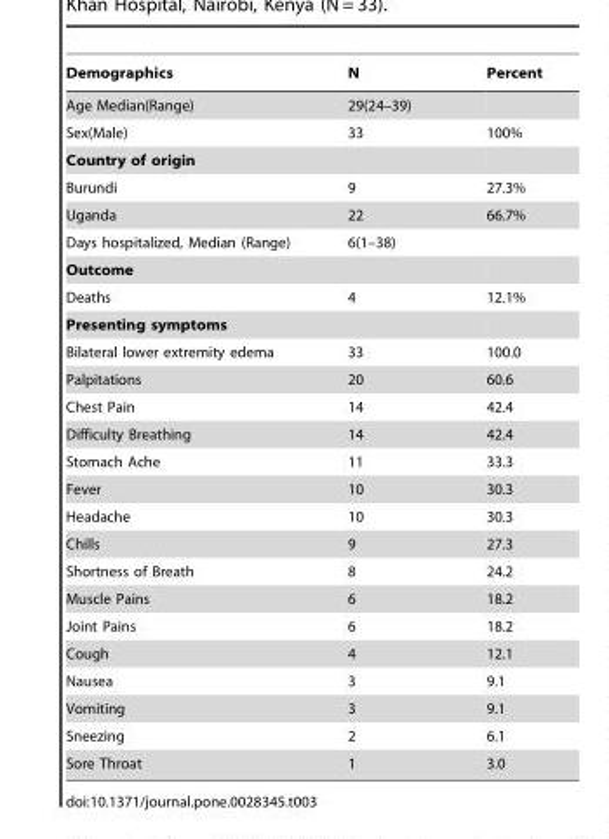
<table><thead><tr><td>Demographics</td><td>N</td><td>Percent</td></tr></thead><tbody><tr><td>Age Median(Range)</td><td>29(24–39)</td><td></td></tr><tr><td>Sex(Male)</td><td>33</td><td>100%</td></tr><tr><td colspan="3">Country of origin</td></tr><tr><td>Burundi</td><td>9</td><td>27.3%</td></tr><tr><td>Uganda</td><td>22</td><td>66.7%</td></tr><tr><td>Days hospitalized, Median (Range)</td><td>6(1–38)</td><td></td></tr><tr><td colspan="3">Outcome</td></tr><tr><td>Deaths</td><td>4</td><td>12.1%</td></tr><tr><td colspan="3">Presenting symptoms</td></tr><tr><td>Bilateral lower extremity edema</td><td>33</td><td>100.0</td></tr><tr><td>Palpitations</td><td>20</td><td>60.6</td></tr><tr><td>Chest Pain</td><td>14</td><td>42.4</td></tr><tr><td>Difficulty Breathing</td><td>14</td><td>42.4</td></tr><tr><td>Stomach Ache</td><td>11</td><td>33.3</td></tr><tr><td>Fever</td><td>10</td><td>30.3</td></tr><tr><td>Headache</td><td>10</td><td>30.3</td></tr><tr><td>Chills</td><td>9</td><td>27.3</td></tr><tr><td>Shortness of Breath</td><td>8</td><td>24.2</td></tr><tr><td>Muscle Pains</td><td>6</td><td>18.2</td></tr><tr><td>Joint Pains</td><td>6</td><td>18.2</td></tr><tr><td>Cough</td><td>4</td><td>12.1</td></tr><tr><td>Nausea</td><td>3</td><td>9.1</td></tr><tr><td>Vomiting</td><td>3</td><td>9.1</td></tr><tr><td>Sneezing</td><td>2</td><td>6.1</td></tr><tr><td>Sore Throat</td><td>1</td><td>3.0</td></tr></tbody></table>